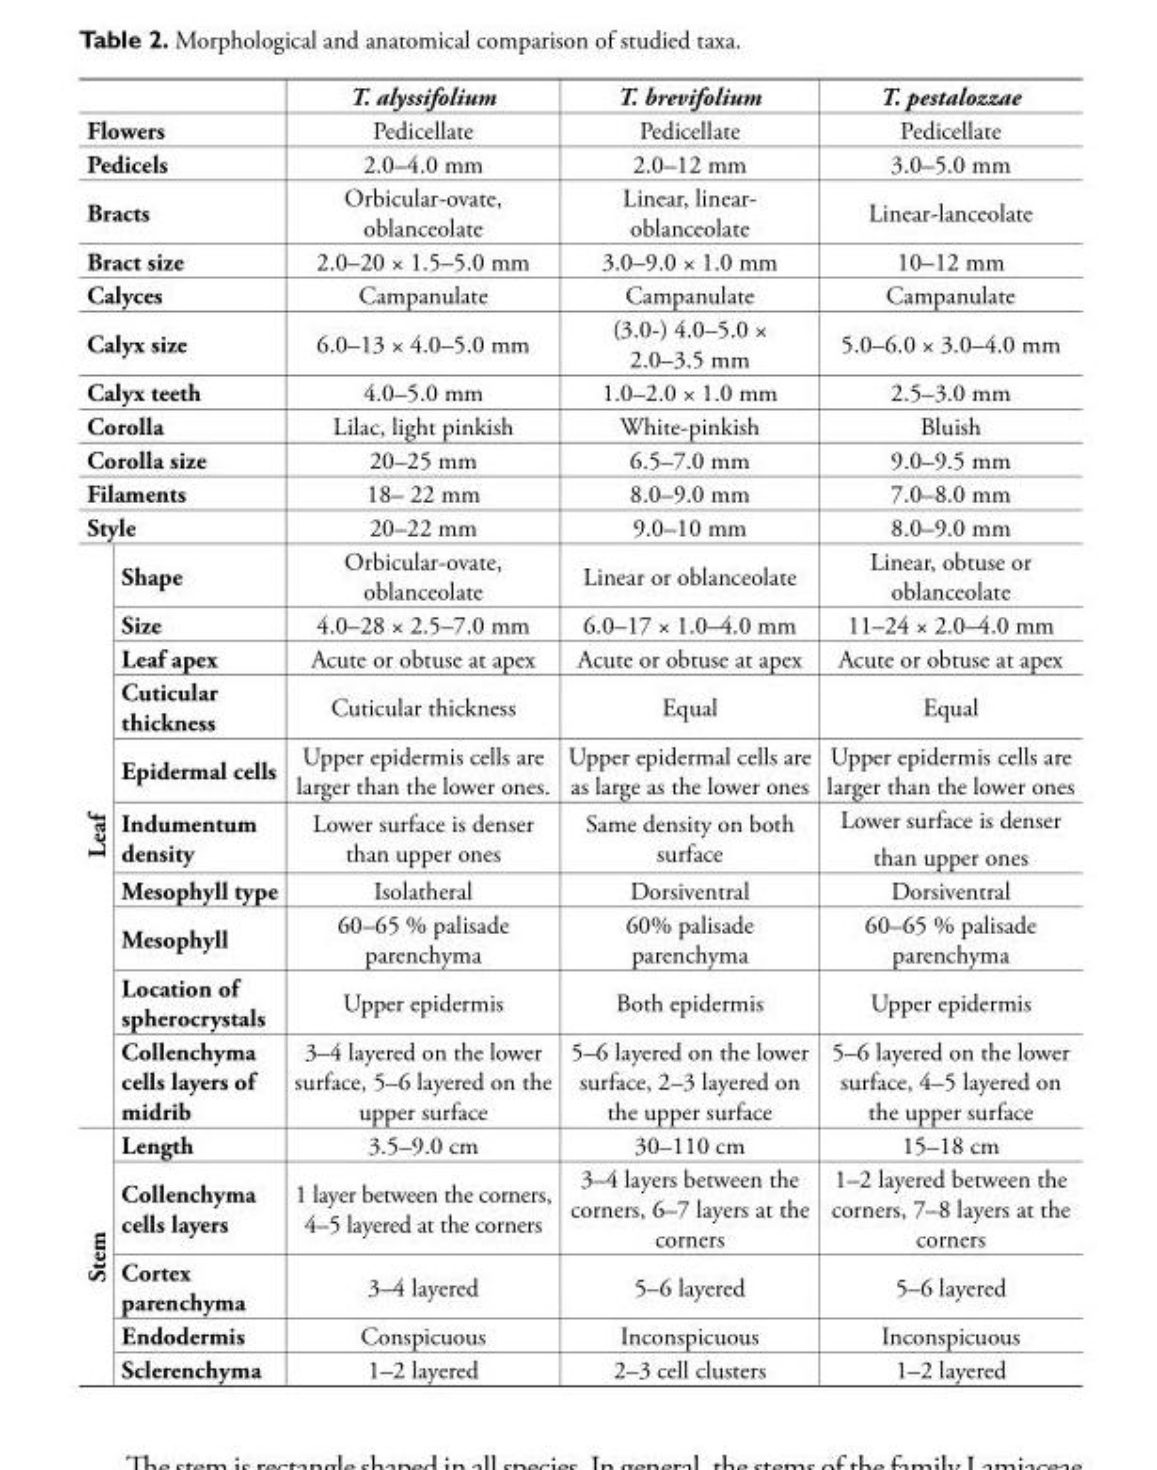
<table><thead><tr><td></td><td></td><td>T. alyssifolium</td><td>T. brevifolium</td><td>T. pestalozzae</td></tr></thead><tbody><tr><td colspan="2">Flowers</td><td>Pedicellate</td><td>Pedicellate</td><td>Pedicellate</td></tr><tr><td colspan="2">Pedicels</td><td>2.0–4.0 mm</td><td>2.0–12 mm</td><td>3.0–5.0 mm</td></tr><tr><td colspan="2">Bracts</td><td>Orbicular-ovate, oblanceolate</td><td>Linear, linear- oblanceolate</td><td>Linear-lanceolate</td></tr><tr><td colspan="2">Bract size</td><td>2.0–20 × 1.5–5.0 mm</td><td>3.0–9.0 × 1.0 mm</td><td>10–12 mm</td></tr><tr><td colspan="2">Calyces</td><td>Campanulate</td><td>Campanulate</td><td>Campanulate</td></tr><tr><td colspan="2">Calyx size</td><td>6.0–13 × 4.0–5.0 mm</td><td>(3.0-) 4.0–5.0 × 2.0–3.5 mm</td><td>5.0–6.0 × 3.0–4.0 mm</td></tr><tr><td colspan="2">Calyx teeth</td><td>4.0–5.0 mm</td><td>1.0–2.0 × 1.0 mm</td><td>2.5–3.0 mm</td></tr><tr><td colspan="2">Corolla</td><td>Lilac, light pinkish</td><td>White-pinkish</td><td>Bluish</td></tr><tr><td colspan="2">Corolla size</td><td>20–25 mm</td><td>6.5–7.0 mm</td><td>9.0–9.5 mm</td></tr><tr><td colspan="2">Filaments</td><td>18– 22 mm</td><td>8.0–9.0 mm</td><td>7.0–8.0 mm</td></tr><tr><td colspan="2">Style</td><td>20–22 mm</td><td>9.0–10 mm</td><td>8.0–9.0 mm</td></tr><tr><td rowspan="10">Leaf</td><td>Shape</td><td>Orbicular-ovate, oblanceolate</td><td>Linear or oblanceolate</td><td>Linear, obtuse or oblanceolate</td></tr><tr><td>Size</td><td>4.0–28 × 2.5–7.0 mm</td><td>6.0–17 × 1.0–4.0 mm</td><td>11–24 × 2.0–4.0 mm</td></tr><tr><td>Leaf apex</td><td>Acute or obtuse at apex</td><td>Acute or obtuse at apex</td><td>Acute or obtuse at apex</td></tr><tr><td>Cuticular thickness</td><td>Cuticular thickness</td><td>Equal</td><td>Equal</td></tr><tr><td>Epidermal cells</td><td>Upper epidermis cells are larger than the lower ones.</td><td>Upper epidermal cells are as large as the lower ones</td><td>Upper epidermis cells are larger than the lower ones</td></tr><tr><td>Indumentum density</td><td>Lower surface is denser than upper ones</td><td>Same density on both surface</td><td>Lower surface is denser than upper ones</td></tr><tr><td>Mesophyll type</td><td>Isolatheral</td><td>Dorsiventral</td><td>Dorsiventral</td></tr><tr><td>Mesophyll</td><td>60–65 % palisade parenchyma</td><td>60% palisade parenchyma</td><td>60–65 % palisade parenchyma</td></tr><tr><td>Location of spherocrystals</td><td>Upper epidermis</td><td>Both epidermis</td><td>Upper epidermis</td></tr><tr><td>Collenchyma cells layers of midrib</td><td>3–4 layered on the lower surface, 5–6 layered on the upper surface</td><td>5–6 layered on the lower surface, 2–3 layered on the upper surface</td><td>5–6 layered on the lower surface, 4–5 layered on the upper surface</td></tr><tr><td rowspan="5">Stem</td><td>Length</td><td>3.5–9.0 cm</td><td>30–110 cm</td><td>15–18 cm</td></tr><tr><td>Collenchyma cells layers</td><td>1 layer between the corners, 4–5 layered at the corners</td><td>3–4 layers between the corners, 6–7 layers at the corners</td><td>1–2 layered between the corners, 7–8 layers at the corners</td></tr><tr><td>Cortex parenchyma</td><td>3–4 layered</td><td>5–6 layered</td><td>5–6 layered</td></tr><tr><td>Endodermis</td><td>Conspicuous</td><td>Inconspicuous</td><td>Inconspicuous</td></tr><tr><td>Sclerenchyma</td><td>1–2 layered</td><td>2–3 cell clusters</td><td>1–2 layered</td></tr></tbody></table>